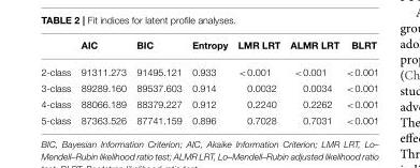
<table><thead><tr><td></td><td>AIC</td><td>BIC</td><td>Entropy</td><td>LMR LRT</td><td>ALMR LRT</td><td>BLRT</td></tr></thead><tbody><tr><td>2-class</td><td>91311.273</td><td>91495.121</td><td>0.933</td><td>&lt;0.001</td><td>&lt;0.001</td><td>&lt;0.001</td></tr><tr><td>3-class</td><td>89289.160</td><td>89537.603</td><td>0.914</td><td>0.0032</td><td>0.0034</td><td>&lt;0.001</td></tr><tr><td>4-class</td><td>88066.189</td><td>88379.227</td><td>0.912</td><td>0.2240</td><td>0.2262</td><td>&lt;0.001</td></tr><tr><td>5-class</td><td>87363.526</td><td>87741.159</td><td>0.896</td><td>0.7028</td><td>0.7031</td><td>&lt;0.001</td></tr></tbody></table>